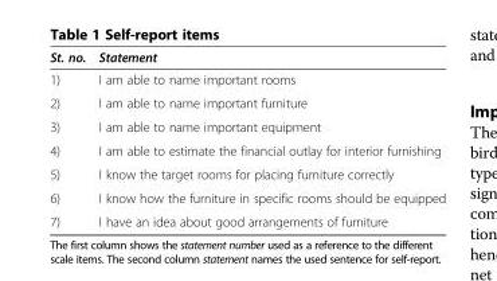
<table><thead><tr><td>St. no.</td><td>Statement</td></tr></thead><tbody><tr><td>1)</td><td>I am able to name important rooms</td></tr><tr><td>2)</td><td>I am able to name important furniture</td></tr><tr><td>3)</td><td>I am able to name important equipment</td></tr><tr><td>4)</td><td>I am able to estimate the financial outlay for interior furnishing</td></tr><tr><td>5)</td><td>I know the target rooms for placing furniture correctly</td></tr><tr><td>6)</td><td>I know how the furniture in specific rooms should be equipped</td></tr><tr><td>7)</td><td>I have an idea about good arrangements of furniture</td></tr></tbody></table>